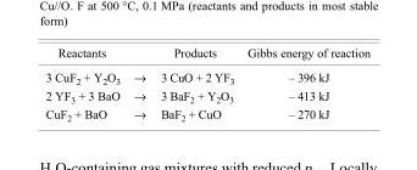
<table><thead><tr><td>Reactants</td><td></td><td>Products</td><td>Gibbs energy of reaction</td></tr></thead><tbody><tr><td>3 CuF<sub>2</sub> + Y<sub>2</sub>O<sub>3</sub></td><td>→</td><td>3 CuO + 2 YF<sub>3</sub></td><td>– 396 kJ</td></tr><tr><td>2 YF<sub>3</sub> + 3 BaO</td><td>→</td><td>3 BaF<sub>2</sub> + Y<sub>2</sub>O<sub>3</sub></td><td>– 413 kJ</td></tr><tr><td>CuF<sub>2</sub> + BaO</td><td>→</td><td>BaF<sub>2</sub> + CuO</td><td>– 270 kJ</td></tr></tbody></table>